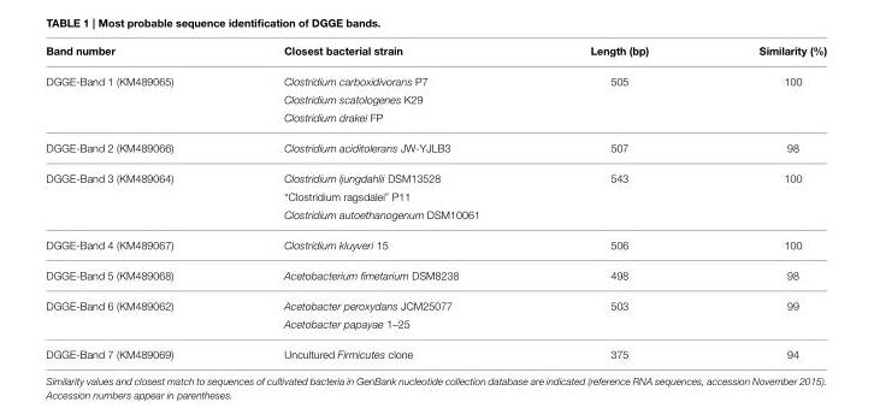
<table><thead><tr><td>Band number</td><td>Closest bacterial strain</td><td>Length (bp)</td><td>Similarity (%)</td></tr></thead><tbody><tr><td rowspan="3">DGGE-Band 1 (KM489065)</td><td>Clostridium carboxidivorans P7</td><td>505</td><td>100</td></tr><tr><td>Clostridium scatologenes K29</td><td></td><td></td></tr><tr><td>Clostridium drakei FP</td><td></td><td></td></tr><tr><td>DGGE-Band 2 (KM489066)</td><td>Clostridium aciditolerans JW-YJLB3</td><td>507</td><td>98</td></tr><tr><td rowspan="3">DGGE-Band 3 (KM489064)</td><td>Clostridium ljungdahlii DSM13528</td><td>543</td><td>100</td></tr><tr><td>“Clostridium ragsdalei” P11</td><td></td><td></td></tr><tr><td>Clostridium autoethanogenum DSM10061</td><td></td><td></td></tr><tr><td>DGGE-Band 4 (KM489067)</td><td>Clostridium kluyveri 15</td><td>506</td><td>100</td></tr><tr><td>DGGE-Band 5 (KM489068)</td><td>Acetobacterium fimetarium DSM8238</td><td>498</td><td>98</td></tr><tr><td rowspan="2">DGGE-Band 6 (KM489062)</td><td>Acetobacter peroxydans JCM25077</td><td>503</td><td>99</td></tr><tr><td>Acetobacter papayae 1–25</td><td></td><td></td></tr><tr><td>DGGE-Band 7 (KM489069)</td><td>Uncultured Firmicutes clone</td><td>375</td><td>94</td></tr></tbody></table>